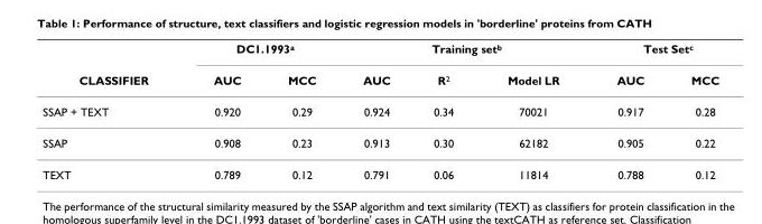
<table><thead><tr><td rowspan="2">CLASSIFIER</td><td colspan="2">DC1.1993<sup>a</sup></td><td colspan="3">Training set<sup>b</sup></td><td colspan="2">Test Set<sup>c</sup></td></tr><tr><td>AUC</td><td>MCC</td><td>AUC</td><td>R<sup>2</sup></td><td>Model LR</td><td>AUC</td><td>MCC</td></tr></thead><tbody><tr><td>SSAP + TEXT</td><td>0.920</td><td>0.29</td><td>0.924</td><td>0.34</td><td>70021</td><td>0.917</td><td>0.28</td></tr><tr><td>SSAP</td><td>0.908</td><td>0.23</td><td>0.913</td><td>0.30</td><td>62182</td><td>0.905</td><td>0.22</td></tr><tr><td>TEXT</td><td>0.789</td><td>0.12</td><td>0.791</td><td>0.06</td><td>11814</td><td>0.788</td><td>0.12</td></tr></tbody></table>